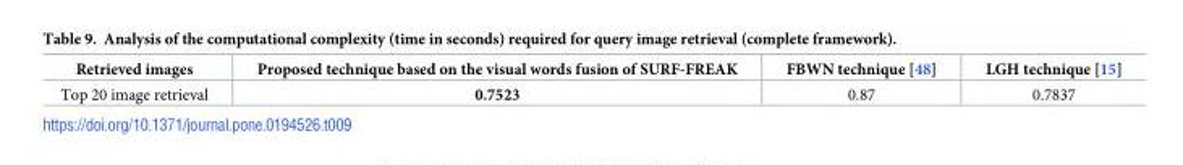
<table><thead><tr><td>Retrieved images</td><td>Proposed technique based on the visual words fusion of SURF-FREAK</td><td>FBWN technique [48]</td><td>LGH technique [15]</td></tr></thead><tbody><tr><td>Top 20 image retrieval</td><td>0.7523</td><td>0.87</td><td>0.7837</td></tr></tbody></table>